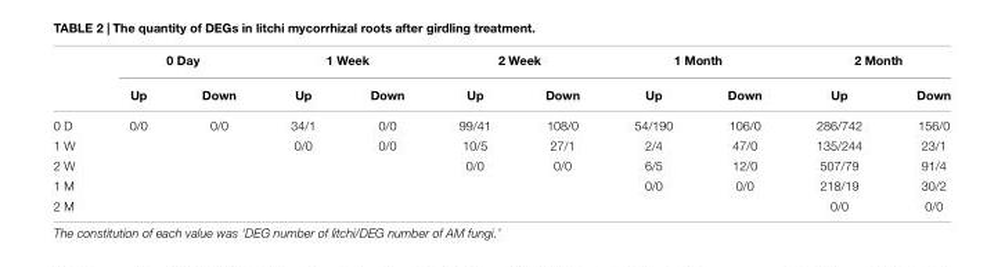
<table><thead><tr><td rowspan="2"></td><td colspan="2">0 Day</td><td colspan="2">1 Week</td><td colspan="2">2 Week</td><td colspan="2">1 Month</td><td colspan="2">2 Month</td></tr><tr><td>Up</td><td>Down</td><td>Up</td><td>Down</td><td>Up</td><td>Down</td><td>Up</td><td>Down</td><td>Up</td><td>Down</td></tr></thead><tbody><tr><td>0 D</td><td>0/0</td><td>0/0</td><td>34/1</td><td>0/0</td><td>99/41</td><td>108/0</td><td>54/190</td><td>106/0</td><td>286/742</td><td>156/0</td></tr><tr><td>1 W</td><td></td><td></td><td>0/0</td><td>0/0</td><td>10/5</td><td>27/1</td><td>2/4</td><td>47/0</td><td>135/244</td><td>23/1</td></tr><tr><td>2 W</td><td></td><td></td><td></td><td></td><td>0/0</td><td>0/0</td><td>6/5</td><td>12/0</td><td>507/79</td><td>91/4</td></tr><tr><td>1 M</td><td></td><td></td><td></td><td></td><td></td><td></td><td>0/0</td><td>0/0</td><td>218/19</td><td>30/2</td></tr><tr><td>2 M</td><td></td><td></td><td></td><td></td><td></td><td></td><td></td><td></td><td>0/0</td><td>0/0</td></tr></tbody></table>